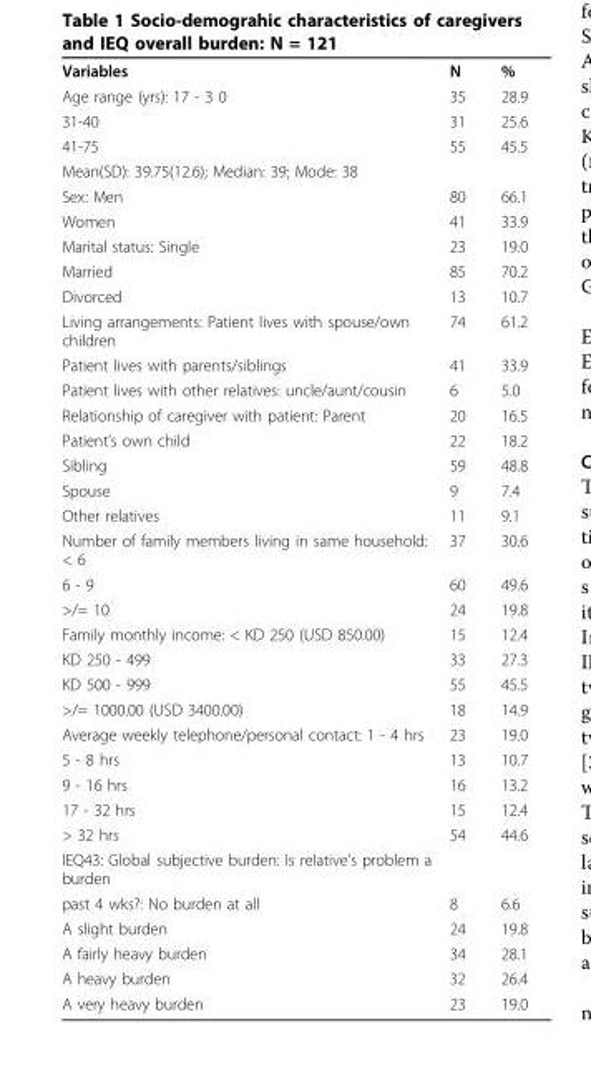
<table><tbody><tr><td>Variables</td><td>N</td><td>%</td></tr><tr><td>Age range (yrs): 17 - 3 0</td><td>35</td><td>28.9</td></tr><tr><td>31-40</td><td>31</td><td>25.6</td></tr><tr><td>41-75</td><td>55</td><td>45.5</td></tr><tr><td colspan="3">Mean(SD): 39.75(12.6); Median: 39; Mode: 38</td></tr><tr><td>Sex: Men</td><td>80</td><td>66.1</td></tr><tr><td>Women</td><td>41</td><td>33.9</td></tr><tr><td>Marital status: Single</td><td>23</td><td>19.0</td></tr><tr><td>Married</td><td>85</td><td>70.2</td></tr><tr><td>Divorced</td><td>13</td><td>10.7</td></tr><tr><td>Living arrangements: Patient lives with spouse/own children</td><td>74</td><td>61.2</td></tr><tr><td>Patient lives with parents/siblings</td><td>41</td><td>33.9</td></tr><tr><td>Patient lives with other relatives: uncle/aunt/cousin</td><td>6</td><td>5.0</td></tr><tr><td>Relationship of caregiver with patient: Parent</td><td>20</td><td>16.5</td></tr><tr><td>Patient’s own child</td><td>22</td><td>18.2</td></tr><tr><td>Sibling</td><td>59</td><td>48.8</td></tr><tr><td>Spouse</td><td>9</td><td>7.4</td></tr><tr><td>Other relatives</td><td>11</td><td>9.1</td></tr><tr><td>Number of family members living in same household: &lt; 6</td><td>37</td><td>30.6</td></tr><tr><td>6 - 9</td><td>60</td><td>49.6</td></tr><tr><td>&gt;/= 10</td><td>24</td><td>19.8</td></tr><tr><td>Family monthly income: &lt; KD 250 (USD 850.00)</td><td>15</td><td>12.4</td></tr><tr><td>KD 250 - 499</td><td>33</td><td>27.3</td></tr><tr><td>KD 500 - 999</td><td>55</td><td>45.5</td></tr><tr><td>&gt;/= 1000.00 (USD 3400.00)</td><td>18</td><td>14.9</td></tr><tr><td>Average weekly telephone/personal contact: 1 - 4 hrs</td><td>23</td><td>19.0</td></tr><tr><td>5 - 8 hrs</td><td>13</td><td>10.7</td></tr><tr><td>9 - 16 hrs</td><td>16</td><td>13.2</td></tr><tr><td>17 - 32 hrs</td><td>15</td><td>12.4</td></tr><tr><td>&gt; 32 hrs</td><td>54</td><td>44.6</td></tr><tr><td colspan="3">IEQ43: Global subjective burden: Is relative’s problem a burden</td></tr><tr><td>past 4 wks?: No burden at all</td><td>8</td><td>6.6</td></tr><tr><td>A slight burden</td><td>24</td><td>19.8</td></tr><tr><td>A fairly heavy burden</td><td>34</td><td>28.1</td></tr><tr><td>A heavy burden</td><td>32</td><td>26.4</td></tr><tr><td>A very heavy burden</td><td>23</td><td>19.0</td></tr></tbody></table>